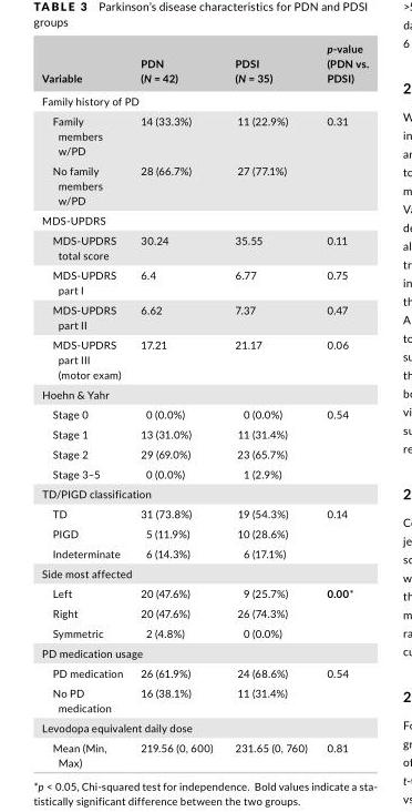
<table><thead><tr><td>Variable</td><td>PDN (N = 42)</td><td>PDSI (N = 35)</td><td>p- value (PDN vs. PDSI)</td></tr></thead><tbody><tr><td colspan="4">Family history of PD</td></tr><tr><td>Family members w/PD</td><td>14 (33.3%)</td><td>11 (22.9%)</td><td rowspan="2">0.31</td></tr><tr><td>No family members w/PD</td><td>28 (66.7%)</td><td>27 (77.1%)</td></tr><tr><td colspan="4">MDS- UPDRS</td></tr><tr><td>MDS- UPDRS total score</td><td>30.24</td><td>35.55</td><td>0.11</td></tr><tr><td>MDS- UPDRS part I</td><td>6.4</td><td>6.77</td><td>0.75</td></tr><tr><td>MDS- UPDRS part II</td><td>6.62</td><td>7.37</td><td>0.47</td></tr><tr><td>MDS- UPDRS part III (motor exam)</td><td>17.21</td><td>21.17</td><td>0.06</td></tr><tr><td colspan="4">Hoehn &amp; Yahr</td></tr><tr><td>Stage 0</td><td>0 (0.0%)</td><td>0 (0.0%)</td><td rowspan="4">0.54</td></tr><tr><td>Stage 1</td><td>13 (31.0%)</td><td>11 (31.4%)</td></tr><tr><td>Stage 2</td><td>29 (69.0%)</td><td>23 (65.7%)</td></tr><tr><td>Stage 3–5</td><td>0 (0.0%)</td><td>1 (2.9%)</td></tr><tr><td colspan="4">TD/PIGD classification</td></tr><tr><td>TD</td><td>31 (73.8%)</td><td>19 (54.3%)</td><td rowspan="3">0.14</td></tr><tr><td>PIGD</td><td>5 (11.9%)</td><td>10 (28.6%)</td></tr><tr><td>Indeterminate</td><td>6 (14.3%)</td><td>6 (17.1%)</td></tr><tr><td colspan="4">Side most affected</td></tr><tr><td>Left</td><td>20 (47.6%)</td><td>9 (25.7%)</td><td rowspan="3">0.00*</td></tr><tr><td>Right</td><td>20 (47.6%)</td><td>26 (74.3%)</td></tr><tr><td>Symmetric</td><td>2 (4.8%)</td><td>0 (0.0%)</td></tr><tr><td colspan="4">PD medication usage</td></tr><tr><td>PD medication</td><td>26 (61.9%)</td><td>24 (68.6%)</td><td rowspan="2">0.54</td></tr><tr><td>No PD medication</td><td>16 (38.1%)</td><td>11 (31.4%)</td></tr><tr><td colspan="4">Levodopa equivalent daily dose</td></tr><tr><td>Mean (Min, Max)</td><td>219.56 (0, 600)</td><td>231.65 (0, 760)</td><td>0.81</td></tr></tbody></table>